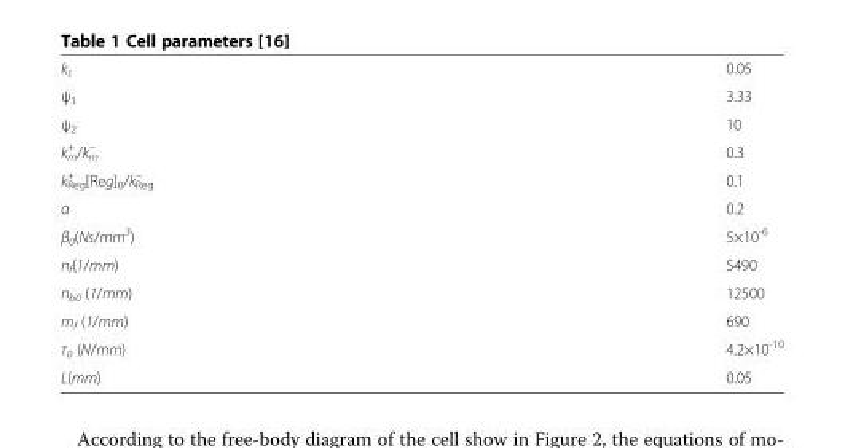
<table><tbody><tr><td>k<sub>s</sub></td><td>0.05</td></tr><tr><td>ψ<sub>1</sub></td><td>3.33</td></tr><tr><td>ψ<sub>2</sub></td><td>10</td></tr><tr><td>k<sub>m</sub> <sup>+</sup> /k<sub>m</sub> <sup>−</sup></td><td>0.3</td></tr><tr><td>k<sub>Reg</sub> <sup>+</sup> [Reg]<sub>0</sub>/k<sub>Reg</sub> <sup>−</sup></td><td>0.1</td></tr><tr><td>α</td><td>0.2</td></tr><tr><td>β<sub>0</sub>(Ns/mm<sup>3</sup>)</td><td>5×10<sup>-6</sup></td></tr><tr><td>n<sub>f</sub>(1/mm)</td><td>5490</td></tr><tr><td>n<sub>b0</sub> (1/mm)</td><td>12500</td></tr><tr><td>m<sub>f</sub> (1/mm)</td><td>690</td></tr><tr><td>τ<sub>0</sub> (N/mm)</td><td>4.2×10<sup>-10</sup></td></tr><tr><td>L(mm)</td><td>0.05</td></tr></tbody></table>